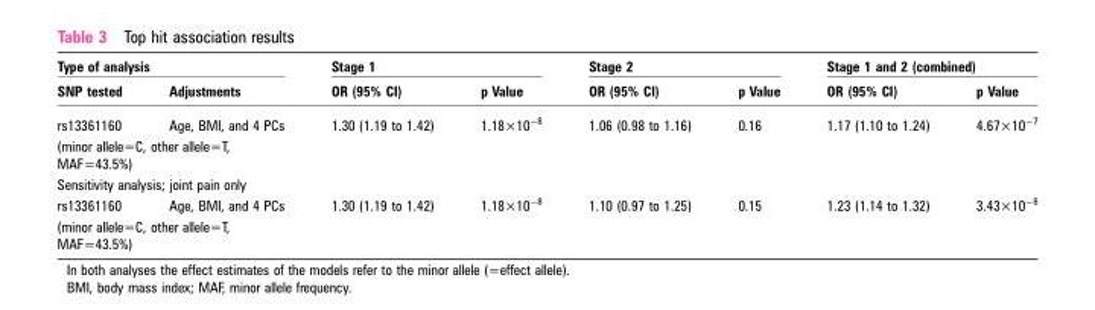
<table><thead><tr><td colspan="2">Type of analysis</td><td colspan="2">Stage 1</td><td colspan="2">Stage 2</td><td colspan="2">Stage 1 and 2 (combined)</td></tr><tr><td>SNP tested</td><td>Adjustments</td><td>OR (95% CI)</td><td>p Value</td><td>OR (95% CI)</td><td>p Value</td><td>OR (95% CI)</td><td>p Value</td></tr></thead><tbody><tr><td>rs13361160</td><td>Age, BMI, and 4 PCs</td><td rowspan="2">1.30 (1.19 to 1.42)</td><td rowspan="2">1.18×10<sup>−8</sup></td><td rowspan="2">1.06 (0.98 to 1.16)</td><td rowspan="2">0.16</td><td rowspan="2">1.17 (1.10 to 1.24)</td><td rowspan="2">4.67×10<sup>−7</sup></td></tr><tr><td colspan="2">(minor allele=C, other allele=T, MAF=43.5%)</td></tr><tr><td colspan="8">Sensitivity analysis; joint pain only</td></tr><tr><td>rs13361160</td><td>Age, BMI, and 4 PCs</td><td rowspan="2">1.30 (1.19 to 1.42)</td><td rowspan="2">1.18×10<sup>−8</sup></td><td rowspan="2">1.10 (0.97 to 1.25)</td><td rowspan="2">0.15</td><td rowspan="2">1.23 (1.14 to 1.32)</td><td rowspan="2">3.43×10<sup>−8</sup></td></tr><tr><td colspan="2">(minor allele=C, other allele=T, MAF=43.5%)</td></tr></tbody></table>